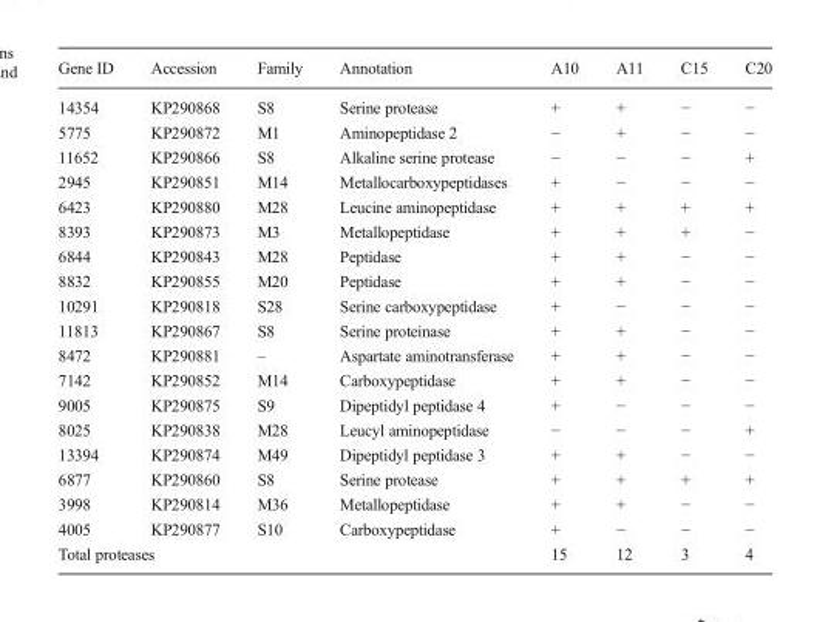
<table><thead><tr><td>Gene ID</td><td>Accession</td><td>Family</td><td>Annotation</td><td>A10</td><td>A11</td><td>C15</td><td>C20</td></tr></thead><tbody><tr><td>14354</td><td>KP290868</td><td>S8</td><td>Serine protease</td><td>+</td><td>+</td><td>−</td><td>−</td></tr><tr><td>5775</td><td>KP290872</td><td>M1</td><td>Aminopeptidase 2</td><td>−</td><td>+</td><td>−</td><td>−</td></tr><tr><td>11652</td><td>KP290866</td><td>S8</td><td>Alkaline serine protease</td><td>−</td><td>−</td><td>−</td><td>+</td></tr><tr><td>2945</td><td>KP290851</td><td>M14</td><td>Metallocarboxypeptidases</td><td>+</td><td>−</td><td>−</td><td>−</td></tr><tr><td>6423</td><td>KP290880</td><td>M28</td><td>Leucine aminopeptidase</td><td>+</td><td>+</td><td>+</td><td>+</td></tr><tr><td>8393</td><td>KP290873</td><td>M3</td><td>Metallopeptidase</td><td>+</td><td>+</td><td>+</td><td>−</td></tr><tr><td>6844</td><td>KP290843</td><td>M28</td><td>Peptidase</td><td>+</td><td>+</td><td>−</td><td>−</td></tr><tr><td>8832</td><td>KP290855</td><td>M20</td><td>Peptidase</td><td>+</td><td>+</td><td>−</td><td>−</td></tr><tr><td>10291</td><td>KP290818</td><td>S28</td><td>Serine carboxypeptidase</td><td>+</td><td>−</td><td>−</td><td>−</td></tr><tr><td>11813</td><td>KP290867</td><td>S8</td><td>Serine proteinase</td><td>+</td><td>+</td><td>−</td><td>−</td></tr><tr><td>8472</td><td>KP290881</td><td>–</td><td>Aspartate aminotransferase</td><td>+</td><td>+</td><td>−</td><td>−</td></tr><tr><td>7142</td><td>KP290852</td><td>M14</td><td>Carboxypeptidase</td><td>+</td><td>+</td><td>−</td><td>−</td></tr><tr><td>9005</td><td>KP290875</td><td>S9</td><td>Dipeptidyl peptidase 4</td><td>+</td><td>−</td><td>−</td><td>−</td></tr><tr><td>8025</td><td>KP290838</td><td>M28</td><td>Leucyl aminopeptidase</td><td>−</td><td>−</td><td>−</td><td>+</td></tr><tr><td>13394</td><td>KP290874</td><td>M49</td><td>Dipeptidyl peptidase 3</td><td>+</td><td>+</td><td>−</td><td>−</td></tr><tr><td>6877</td><td>KP290860</td><td>S8</td><td>Serine protease</td><td>+</td><td>+</td><td>+</td><td>+</td></tr><tr><td>3998</td><td>KP290814</td><td>M36</td><td>Metallopeptidase</td><td>+</td><td>+</td><td>−</td><td>−</td></tr><tr><td>4005</td><td>KP290877</td><td>S10</td><td>Carboxypeptidase</td><td>+</td><td>−</td><td>−</td><td>−</td></tr><tr><td colspan="4">Total proteases</td><td>15</td><td>12</td><td>3</td><td>4</td></tr></tbody></table>